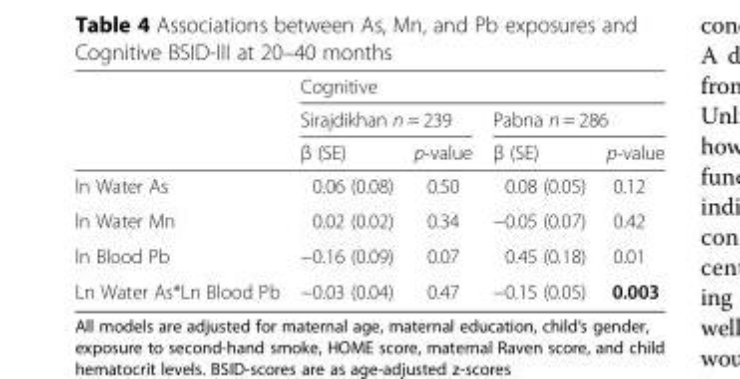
<table><thead><tr><td rowspan="3"></td><td colspan="4">Cognitive</td></tr><tr><td colspan="2">Sirajdikhan n = 239</td><td colspan="2">Pabna n = 286</td></tr><tr><td>β (SE)</td><td>p-value</td><td>β (SE)</td><td>p-value</td></tr></thead><tbody><tr><td>ln Water As</td><td>0.06 (0.08)</td><td>0.50</td><td>0.08 (0.05)</td><td>0.12</td></tr><tr><td>ln Water Mn</td><td>0.02 (0.02)</td><td>0.34</td><td>−0.05 (0.07)</td><td>0.42</td></tr><tr><td>ln Blood Pb</td><td>−0.16 (0.09)</td><td>0.07</td><td>0.45 (0.18)</td><td>0.01</td></tr><tr><td>Ln Water As*Ln Blood Pb</td><td>−0.03 (0.04)</td><td>0.47</td><td>−0.15 (0.05)</td><td>0.003</td></tr></tbody></table>